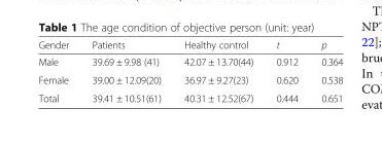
<table><thead><tr><td>Gender</td><td>Patients</td><td>Healthy control</td><td>t</td><td>p</td></tr></thead><tbody><tr><td>Male</td><td>39.69 ± 9.98 (41)</td><td>42.07 ± 13.70(44)</td><td>0.912</td><td>0.364</td></tr><tr><td>Female</td><td>39.00 ± 12.09(20)</td><td>36.97 ± 9.27(23)</td><td>0.620</td><td>0.538</td></tr><tr><td>Total</td><td>39.41 ± 10.51(61)</td><td>40.31 ± 12.52(67)</td><td>0.444</td><td>0.651</td></tr></tbody></table>